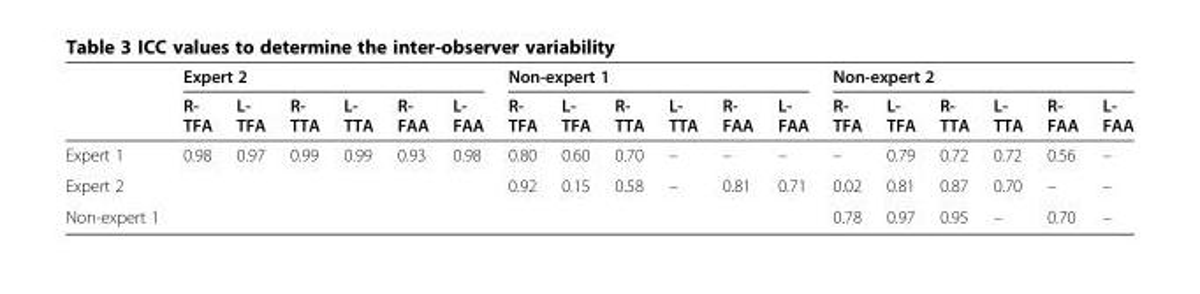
<table><thead><tr><td rowspan="2"></td><td colspan="6">Expert 2</td><td colspan="6">Non-expert 1</td><td colspan="6">Non-expert 2</td></tr><tr><td>R- TFA</td><td>L- TFA</td><td>R- TTA</td><td>L- TTA</td><td>R- FAA</td><td>L- FAA</td><td>R- TFA</td><td>L- TFA</td><td>R- TTA</td><td>L- TTA</td><td>R- FAA</td><td>L- FAA</td><td>R- TFA</td><td>L- TFA</td><td>R- TTA</td><td>L- TTA</td><td>R- FAA</td><td>L- FAA</td></tr></thead><tbody><tr><td>Expert 1</td><td>0.98</td><td>0.97</td><td>0.99</td><td>0.99</td><td>0.93</td><td>0.98</td><td>0.80</td><td>0.60</td><td>0.70</td><td>–</td><td>–</td><td>–</td><td>–</td><td>0.79</td><td>0.72</td><td>0.72</td><td>0.56</td><td>–</td></tr><tr><td>Expert 2</td><td></td><td></td><td></td><td></td><td></td><td></td><td>0.92</td><td>0.15</td><td>0.58</td><td>–</td><td>0.81</td><td>0.71</td><td>0.02</td><td>0.81</td><td>0.87</td><td>0.70</td><td>–</td><td>–</td></tr><tr><td>Non-expert 1</td><td></td><td></td><td></td><td></td><td></td><td></td><td></td><td></td><td></td><td></td><td></td><td></td><td>0.78</td><td>0.97</td><td>0.95</td><td>–</td><td>0.70</td><td>–</td></tr></tbody></table>